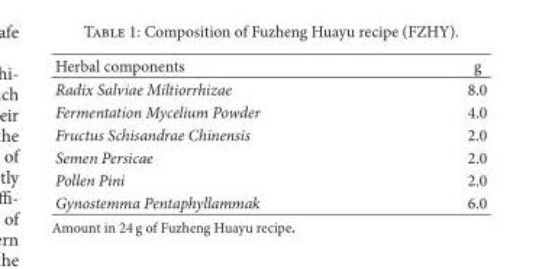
<table><thead><tr><td>Herbal components</td><td>g</td></tr></thead><tbody><tr><td>Radix Salviae Miltiorrhizae</td><td>8.0</td></tr><tr><td>Fermentation Mycelium Powder</td><td>4.0</td></tr><tr><td>Fructus Schisandrae Chinensis</td><td>2.0</td></tr><tr><td>Semen Persicae</td><td>2.0</td></tr><tr><td>Pollen Pini</td><td>2.0</td></tr><tr><td>Gynostemma Pentaphyllammak</td><td>6.0</td></tr></tbody></table>